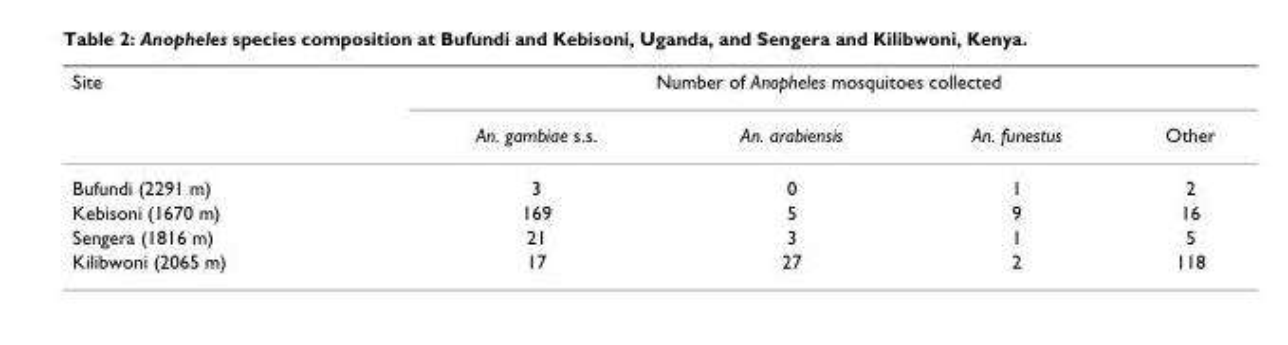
<table><thead><tr><td rowspan="2">Site</td><td colspan="4">Number of Anopheles mosquitoes collected</td></tr><tr><td>An. gambiae s.s.</td><td>An. arabiensis</td><td>An. funestus</td><td>Other</td></tr></thead><tbody><tr><td>Bufundi (2291 m)</td><td>3</td><td>0</td><td>1</td><td>2</td></tr><tr><td>Kebisoni (1670 m)</td><td>169</td><td>5</td><td>9</td><td>16</td></tr><tr><td>Sengera (1816 m)</td><td>21</td><td>3</td><td>1</td><td>5</td></tr><tr><td>Kilibwoni (2065 m)</td><td>17</td><td>27</td><td>2</td><td>118</td></tr></tbody></table>